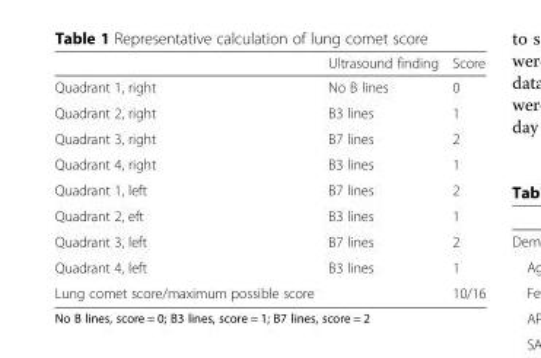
<table><thead><tr><td></td><td>Ultrasound finding</td><td>Score</td></tr></thead><tbody><tr><td>Quadrant 1, right</td><td>No B lines</td><td>0</td></tr><tr><td>Quadrant 2, right</td><td>B3 lines</td><td>1</td></tr><tr><td>Quadrant 3, right</td><td>B7 lines</td><td>2</td></tr><tr><td>Quadrant 4, right</td><td>B3 lines</td><td>1</td></tr><tr><td>Quadrant 1, left</td><td>B7 lines</td><td>2</td></tr><tr><td>Quadrant 2, eft</td><td>B3 lines</td><td>1</td></tr><tr><td>Quadrant 3, left</td><td>B7 lines</td><td>2</td></tr><tr><td>Quadrant 4, left</td><td>B3 lines</td><td>1</td></tr><tr><td>Lung comet score/maximum possible score</td><td></td><td>10/16</td></tr></tbody></table>